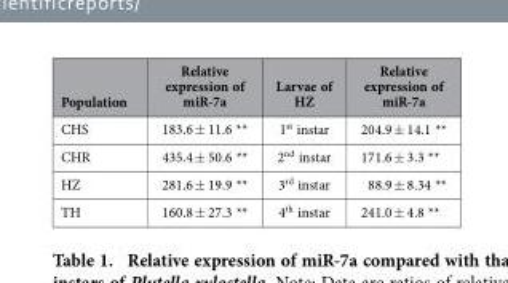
<table><thead><tr><td>Population</td><td>Relative expression of miR-7a</td><td>Larvae of HZ</td><td>Relative expression of miR-7a</td></tr></thead><tbody><tr><td>CHS</td><td>183.6 ± 11.6 **</td><td>1<sup>st</sup> instar</td><td>204.9 ± 14.1 **</td></tr><tr><td>CHR</td><td>435.4 ± 50.6 **</td><td>2<sup>nd</sup> instar</td><td>171.6 ± 3.3 **</td></tr><tr><td>HZ</td><td>281.6 ± 19.9 **</td><td>3<sup>rd</sup> instar</td><td>88.9 ± 8.34 **</td></tr><tr><td>TH</td><td>160.8 ± 27.3 **</td><td>4<sup>th</sup> instar</td><td>241.0 ± 4.8 **</td></tr></tbody></table>